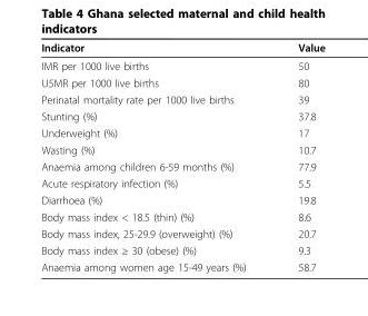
<table><thead><tr><td>Indicator</td><td>Value</td></tr></thead><tbody><tr><td>IMR per 1000 live births</td><td>50</td></tr><tr><td>U5MR per 1000 live births</td><td>80</td></tr><tr><td>Perinatal mortality rate per 1000 live births</td><td>39</td></tr><tr><td>Stunting (%)</td><td>37.8</td></tr><tr><td>Underweight (%)</td><td>17</td></tr><tr><td>Wasting (%)</td><td>10.7</td></tr><tr><td>Anaemia among children 6-59 months (%)</td><td>77.9</td></tr><tr><td>Acute respiratory infection (%)</td><td>5.5</td></tr><tr><td>Diarrhoea (%)</td><td>19.8</td></tr><tr><td>Body mass index &lt; 18.5 (thin) (%)</td><td>8.6</td></tr><tr><td>Body mass index, 25-29.9 (overweight) (%)</td><td>20.7</td></tr><tr><td>Body mass index ≥ 30 (obese) (%)</td><td>9.3</td></tr><tr><td>Anaemia among women age 15-49 years (%)</td><td>58.7</td></tr></tbody></table>